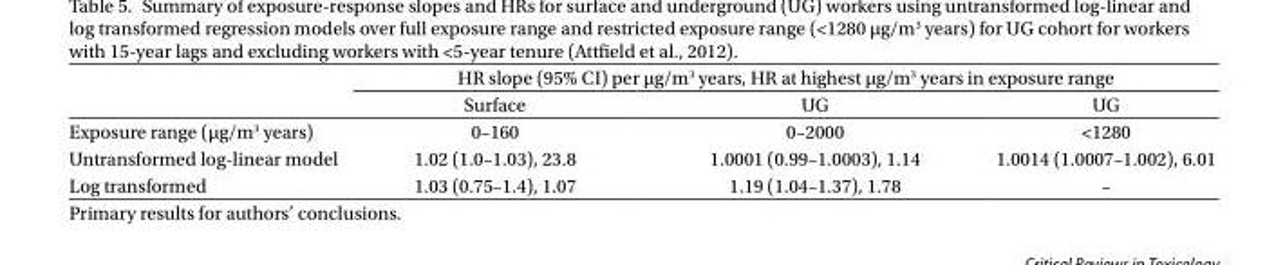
<table><thead><tr><td rowspan="2"></td><td colspan="3">HR slope (95% CI) per µg/m<sup>3</sup> years, HR at highest µg/m<sup>3</sup> years in exposure range</td></tr><tr><td>Surface</td><td>UG</td><td>UG</td></tr></thead><tbody><tr><td>Exposure range (µg/m<sup>3</sup> years)</td><td>0–160</td><td>0–2000</td><td>&lt;1280</td></tr><tr><td>Untransformed log-linear model</td><td>1.02 (1.0–1.03), 23.8</td><td>1.0001 (0.99–1.0003), 1.14</td><td>1.0014 (1.0007–1.002), 6.01</td></tr><tr><td>Log transformed</td><td>1.03 (0.75–1.4), 1.07</td><td>1.19 (1.04–1.37), 1.78</td><td>–</td></tr></tbody></table>